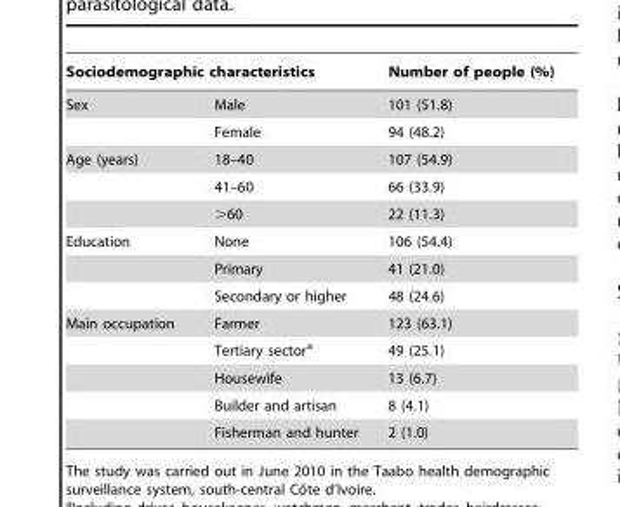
<table><thead><tr><td colspan="2">Sociodemographic characteristics</td><td rowspan="2">Number of people (%) 101 (51.8)</td></tr><tr><td>Sex</td><td>Male</td></tr></thead><tbody><tr><td></td><td>Female</td><td>94 (48.2)</td></tr><tr><td rowspan="3">Age (years)</td><td>18–40</td><td>107 (54.9)</td></tr><tr><td>41–60</td><td>66 (33.9)</td></tr><tr><td>&gt;60</td><td>22 (11.3)</td></tr><tr><td rowspan="3">Education</td><td>None</td><td>106 (54.4)</td></tr><tr><td>Primary</td><td>41 (21.0)</td></tr><tr><td>Secondary or higher</td><td>48 (24.6)</td></tr><tr><td rowspan="5">Main occupation</td><td>Farmer</td><td>123 (63.1)</td></tr><tr><td>Tertiary sector<sup>a</sup></td><td>49 (25.1)</td></tr><tr><td>Housewife</td><td>13 (6.7)</td></tr><tr><td>Builder and artisan</td><td>8 (4.1)</td></tr><tr><td>Fisherman and hunter</td><td>2 (1.0)</td></tr></tbody></table>